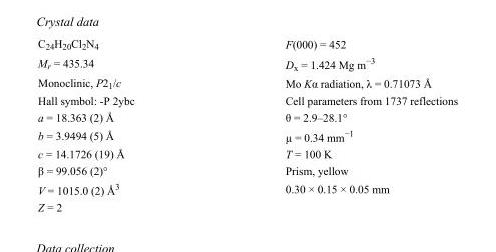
<table><tbody><tr><td>C<sub>24</sub>H<sub>20</sub>Cl<sub>2</sub>N<sub>4</sub></td><td>F(000) = 452</td></tr><tr><td>M<sub>r</sub> = 435.34</td><td>D<sub>x</sub> = 1.424 Mg m<sup>−3</sup></td></tr><tr><td>Monoclinic, P2<sub>1</sub>/c</td><td>Mo Kα radiation, λ = 0.71073 Å</td></tr><tr><td>Hall symbol: -P 2ybc</td><td>Cell parameters from 1737 reflections</td></tr><tr><td>a = 18.363 (2) Å</td><td>θ = 2.9–28.1°</td></tr><tr><td>b = 3.9494 (5) Å</td><td>µ = 0.34 mm<sup>−1</sup></td></tr><tr><td>c = 14.1726 (19) Å</td><td>T = 100 K</td></tr><tr><td>β = 99.056 (2)°</td><td>Prism, yellow</td></tr><tr><td>V = 1015.0 (2) Å<sup>3</sup></td><td>0.30 × 0.15 × 0.05 mm</td></tr><tr><td>Z = 2</td><td></td></tr></tbody></table>